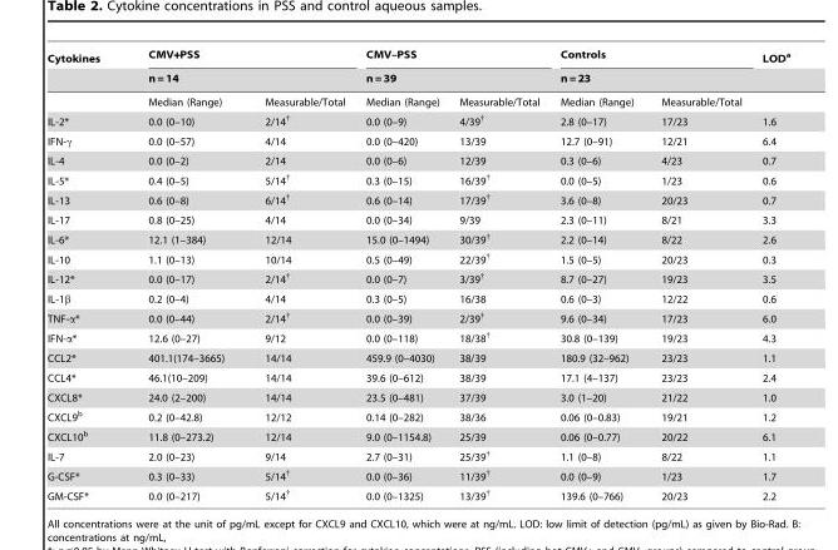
<table><thead><tr><td rowspan="3">Cytokines</td><td rowspan="2" colspan="2">CMV+PSS n = 14</td><td rowspan="2" colspan="2">CMV–PSS n = 39</td><td rowspan="2" colspan="2">Controls n = 23</td><td rowspan="3">LOD<sup>a</sup></td></tr><tr></tr><tr><td>Median (Range)</td><td>Measurable/Total</td><td>Median (Range)</td><td>Measurable/Total</td><td>Median (Range)</td><td>Measurable/Total</td></tr></thead><tbody><tr><td>IL-2*</td><td>0.0 (0–10)</td><td>2/14†</td><td>0.0 (0–9)</td><td>4/39†</td><td>2.8 (0–17)</td><td>17/23</td><td>1.6</td></tr><tr><td>IFN-γ</td><td>0.0 (0–57)</td><td>4/14</td><td>0.0 (0–420)</td><td>13/39</td><td>12.7 (0–91)</td><td>12/21</td><td>6.4</td></tr><tr><td>IL-4</td><td>0.0 (0–2)</td><td>2/14</td><td>0.0 (0–6)</td><td>12/39</td><td>0.3 (0–6)</td><td>4/23</td><td>0.7</td></tr><tr><td>IL-5*</td><td>0.4 (0–5)</td><td>5/14†</td><td>0.3 (0–15)</td><td>16/39†</td><td>0.0 (0–5)</td><td>1/23</td><td>0.6</td></tr><tr><td>IL-13</td><td>0.6 (0–8)</td><td>6/14†</td><td>0.6 (0–14)</td><td>17/39†</td><td>3.6 (0–8)</td><td>20/23</td><td>0.7</td></tr><tr><td>IL-17</td><td>0.8 (0–25)</td><td>4/14</td><td>0.0 (0–34)</td><td>9/39</td><td>2.3 (0–11)</td><td>8/21</td><td>3.3</td></tr><tr><td>IL-6*</td><td>12.1 (1–384)</td><td>12/14</td><td>15.0 (0–1494)</td><td>30/39†</td><td>2.2 (0–14)</td><td>8/22</td><td>2.6</td></tr><tr><td>IL-10</td><td>1.1 (0–13)</td><td>10/14</td><td>0.5 (0–49)</td><td>22/39†</td><td>1.5 (0–5)</td><td>20/23</td><td>0.3</td></tr><tr><td>IL-12*</td><td>0.0 (0–17)</td><td>2/14†</td><td>0.0 (0–7)</td><td>3/39†</td><td>8.7 (0–27)</td><td>19/23</td><td>3.5</td></tr><tr><td>IL-1β</td><td>0.2 (0–4)</td><td>4/14</td><td>0.3 (0–5)</td><td>16/38</td><td>0.6 (0–3)</td><td>12/22</td><td>0.6</td></tr><tr><td>TNF-α*</td><td>0.0 (0–44)</td><td>2/14†</td><td>0.0 (0–39)</td><td>2/39†</td><td>9.6 (0–34)</td><td>17/23</td><td>6.0</td></tr><tr><td>IFN-α*</td><td>12.6 (0–27)</td><td>9/12</td><td>0.0 (0–118)</td><td>18/38†</td><td>30.8 (0–139)</td><td>19/23</td><td>4.3</td></tr><tr><td>CCL2*</td><td>401.1(174–3665)</td><td>14/14</td><td>459.9 (0–4030)</td><td>38/39</td><td>180.9 (32–962)</td><td>23/23</td><td>1.1</td></tr><tr><td>CCL4*</td><td>46.1(10–209)</td><td>14/14</td><td>39.6 (0–612)</td><td>38/39</td><td>17.1 (4–137)</td><td>23/23</td><td>2.4</td></tr><tr><td>CXCL8*</td><td>24.0 (2–200)</td><td>14/14</td><td>23.5 (0–481)</td><td>37/39</td><td>3.0 (1–20)</td><td>21/22</td><td>1.0</td></tr><tr><td>CXCL9<sup>b</sup></td><td>0.2 (0–42.8)</td><td>12/12</td><td>0.14 (0–282)</td><td>38/36</td><td>0.06 (0–0.83)</td><td>19/21</td><td>1.2</td></tr><tr><td>CXCL10<sup>b</sup></td><td>11.8 (0–273.2)</td><td>12/14</td><td>9.0 (0–1154.8)</td><td>25/39</td><td>0.06 (0–0.77)</td><td>20/22</td><td>6.1</td></tr><tr><td>IL-7</td><td>2.0 (0–23)</td><td>9/14</td><td>2.7 (0–31)</td><td>25/39†</td><td>1.1 (0–8)</td><td>8/22</td><td>1.1</td></tr><tr><td>G-CSF*</td><td>0.3 (0–33)</td><td>5/14†</td><td>0.0 (0–36)</td><td>11/39†</td><td>0.0 (0–9)</td><td>1/23</td><td>1.7</td></tr><tr><td>GM-CSF*</td><td>0.0 (0–217)</td><td>5/14†</td><td>0.0 (0–1325)</td><td>13/39†</td><td>139.6 (0–766)</td><td>20/23</td><td>2.2</td></tr></tbody></table>